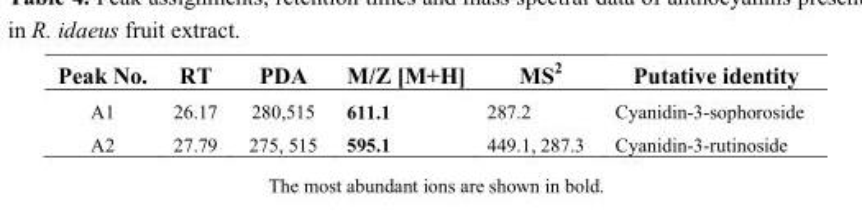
<table><thead><tr><td>Peak No.</td><td>RT</td><td>PDA</td><td>M/Z [M+H]</td><td>MS<sup>2</sup></td><td>Putative identity</td></tr></thead><tbody><tr><td>A1</td><td>26.17</td><td>280,515</td><td>611.1</td><td>287.2</td><td>Cyanidin-3-sophoroside</td></tr><tr><td>A2</td><td>27.79</td><td>275, 515</td><td>595.1</td><td>449.1, 287.3</td><td>Cyanidin-3-rutinoside</td></tr></tbody></table>